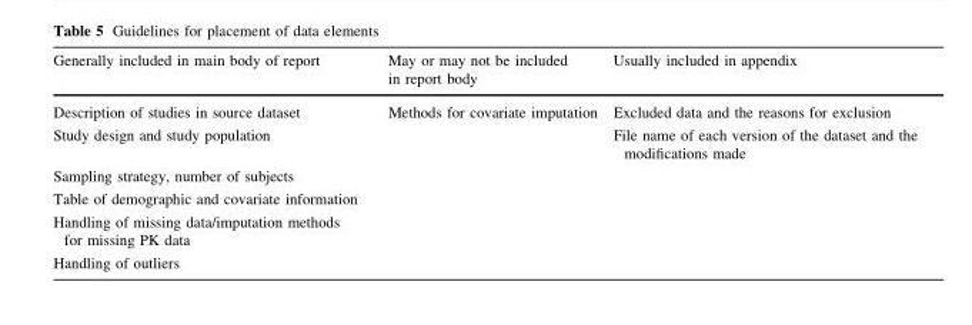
<table><thead><tr><td>Generally included in main body of report</td><td>May or may not be included in report body</td><td>Usually included in appendix</td></tr></thead><tbody><tr><td>Description of studies in source dataset</td><td>Methods for covariate imputation</td><td>Excluded data and the reasons for exclusion</td></tr><tr><td>Study design and study population</td><td></td><td>File name of each version of the dataset and the modifications made</td></tr><tr><td colspan="3">Sampling strategy, number of subjects</td></tr><tr><td colspan="3">Table of demographic and covariate information</td></tr><tr><td colspan="3">Handling of missing data/imputation methods for missing PK data</td></tr><tr><td>Handling of outliers</td><td></td><td></td></tr></tbody></table>